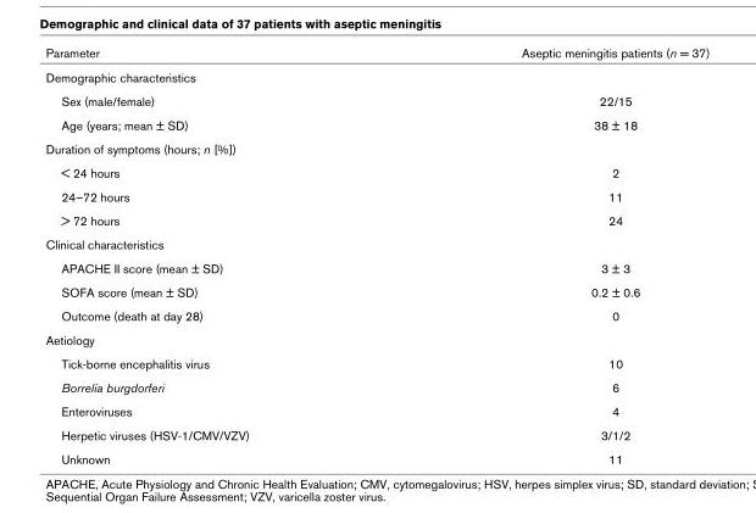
<table><thead><tr><td>Parameter</td><td>Aseptic meningitis patients (n = 37)</td></tr></thead><tbody><tr><td colspan="2">Demographic characteristics</td></tr><tr><td>Sex (male/female)</td><td>22/15</td></tr><tr><td>Age (years; mean ± SD)</td><td>38 ± 18</td></tr><tr><td colspan="2">Duration of symptoms (hours; n [%])</td></tr><tr><td>&lt; 24 hours</td><td>2</td></tr><tr><td>24–72 hours</td><td>11</td></tr><tr><td>&gt; 72 hours</td><td>24</td></tr><tr><td colspan="2">Clinical characteristics</td></tr><tr><td>APACHE II score (mean ± SD)</td><td>3 ± 3</td></tr><tr><td>SOFA score (mean ± SD)</td><td>0.2 ± 0.6</td></tr><tr><td>Outcome (death at day 28)</td><td>0</td></tr><tr><td colspan="2">Aetiology</td></tr><tr><td>Tick-borne encephalitis virus</td><td>10</td></tr><tr><td>Borrelia burgdorferi</td><td>6</td></tr><tr><td>Enteroviruses</td><td>4</td></tr><tr><td>Herpetic viruses (HSV-1/CMV/VZV)</td><td>3/1/2</td></tr><tr><td>Unknown</td><td>11</td></tr></tbody></table>